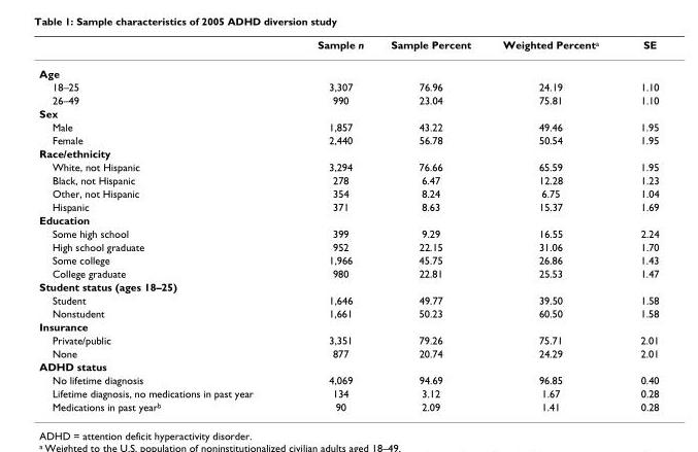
<table><thead><tr><td></td><td>Sample n</td><td>Sample Percent</td><td>Weighted Percent<sup>a</sup></td><td>SE</td></tr></thead><tbody><tr><td colspan="5">Age</td></tr><tr><td>18–25</td><td>3,307</td><td>76.96</td><td>24.19</td><td>1.10</td></tr><tr><td>26–49</td><td>990</td><td>23.04</td><td>75.81</td><td>1.10</td></tr><tr><td colspan="5">Sex</td></tr><tr><td>Male</td><td>1,857</td><td>43.22</td><td>49.46</td><td>1.95</td></tr><tr><td>Female</td><td>2,440</td><td>56.78</td><td>50.54</td><td>1.95</td></tr><tr><td colspan="5">Race/ethnicity</td></tr><tr><td>White, not Hispanic</td><td>3,294</td><td>76.66</td><td>65.59</td><td>1.95</td></tr><tr><td>Black, not Hispanic</td><td>278</td><td>6.47</td><td>12.28</td><td>1.23</td></tr><tr><td>Other, not Hispanic</td><td>354</td><td>8.24</td><td>6.75</td><td>1.04</td></tr><tr><td>Hispanic</td><td>371</td><td>8.63</td><td>15.37</td><td>1.69</td></tr><tr><td colspan="5">Education</td></tr><tr><td>Some high school</td><td>399</td><td>9.29</td><td>16.55</td><td>2.24</td></tr><tr><td>High school graduate</td><td>952</td><td>22.15</td><td>31.06</td><td>1.70</td></tr><tr><td>Some college</td><td>1,966</td><td>45.75</td><td>26.86</td><td>1.43</td></tr><tr><td>College graduate</td><td>980</td><td>22.81</td><td>25.53</td><td>1.47</td></tr><tr><td colspan="5">Student status (ages 18–25)</td></tr><tr><td>Student</td><td>1,646</td><td>49.77</td><td>39.50</td><td>1.58</td></tr><tr><td>Nonstudent</td><td>1,661</td><td>50.23</td><td>60.50</td><td>1.58</td></tr><tr><td colspan="5">Insurance</td></tr><tr><td>Private/public</td><td>3,351</td><td>79.26</td><td>75.71</td><td>2.01</td></tr><tr><td>None</td><td>877</td><td>20.74</td><td>24.29</td><td>2.01</td></tr><tr><td colspan="5">ADHD status</td></tr><tr><td>No lifetime diagnosis</td><td>4,069</td><td>94.69</td><td>96.85</td><td>0.40</td></tr><tr><td>Lifetime diagnosis, no medications in past year</td><td>134</td><td>3.12</td><td>1.67</td><td>0.28</td></tr><tr><td>Medications in past year<sup>b</sup></td><td>90</td><td>2.09</td><td>1.41</td><td>0.28</td></tr></tbody></table>